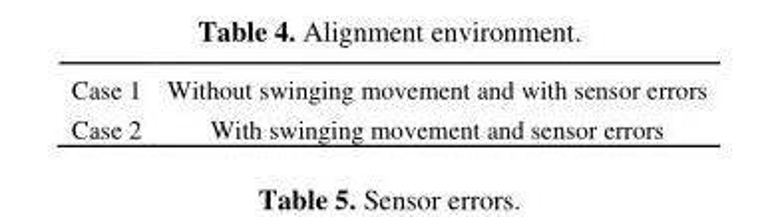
<table><tbody><tr><td>Case 1</td><td>Without swinging movement and with sensor errors</td></tr><tr><td>Case 2</td><td>With swinging movement and sensor errors</td></tr></tbody></table>